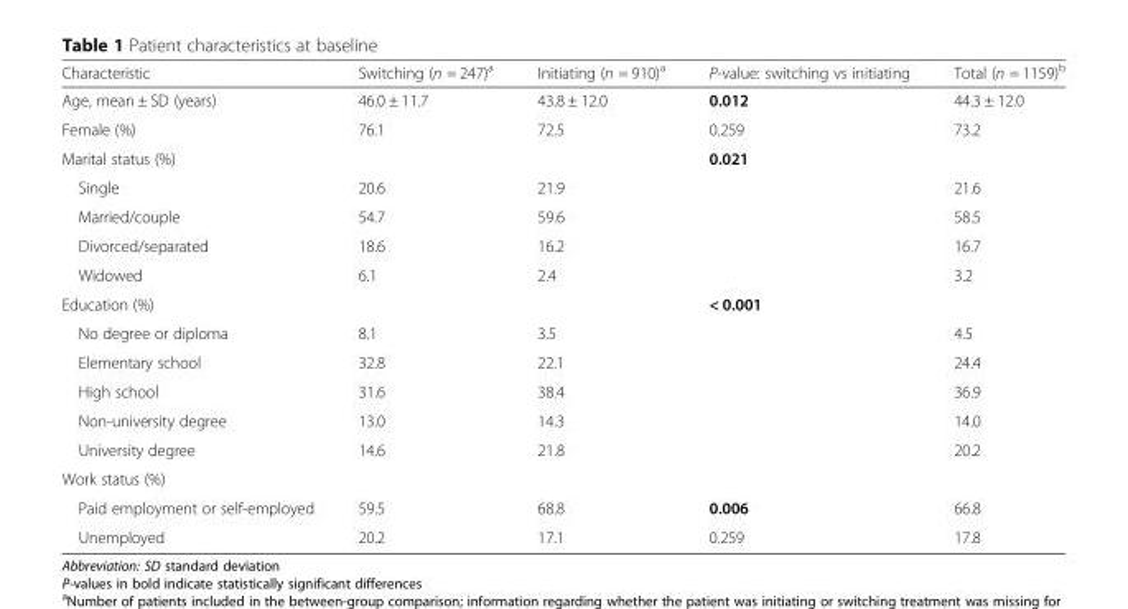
<table><thead><tr><td>Characteristic</td><td>Switching (n = 247)<sup>a</sup></td><td>Initiating (n = 910)<sup>a</sup></td><td>P-value: switching vs initiating</td><td>Total (n = 1159)<sup>b</sup></td></tr></thead><tbody><tr><td>Age, mean ± SD (years)</td><td>46.0 ± 11.7</td><td>43.8 ± 12.0</td><td>0.012</td><td>44.3 ± 12.0</td></tr><tr><td>Female (%)</td><td>76.1</td><td>72.5</td><td>0.259</td><td>73.2</td></tr><tr><td>Marital status (%)</td><td></td><td></td><td>0.021</td><td></td></tr><tr><td>Single</td><td>20.6</td><td>21.9</td><td></td><td>21.6</td></tr><tr><td>Married/couple</td><td>54.7</td><td>59.6</td><td></td><td>58.5</td></tr><tr><td>Divorced/separated</td><td>18.6</td><td>16.2</td><td></td><td>16.7</td></tr><tr><td>Widowed</td><td>6.1</td><td>2.4</td><td></td><td>3.2</td></tr><tr><td>Education (%)</td><td></td><td></td><td>&lt; 0.001</td><td></td></tr><tr><td>No degree or diploma</td><td>8.1</td><td>3.5</td><td></td><td>4.5</td></tr><tr><td>Elementary school</td><td>32.8</td><td>22.1</td><td></td><td>24.4</td></tr><tr><td>High school</td><td>31.6</td><td>38.4</td><td></td><td>36.9</td></tr><tr><td>Non-university degree</td><td>13.0</td><td>14.3</td><td></td><td>14.0</td></tr><tr><td>University degree</td><td>14.6</td><td>21.8</td><td></td><td>20.2</td></tr><tr><td colspan="5">Work status (%)</td></tr><tr><td>Paid employment or self-employed</td><td>59.5</td><td>68.8</td><td>0.006</td><td>66.8</td></tr><tr><td>Unemployed</td><td>20.2</td><td>17.1</td><td>0.259</td><td>17.8</td></tr></tbody></table>